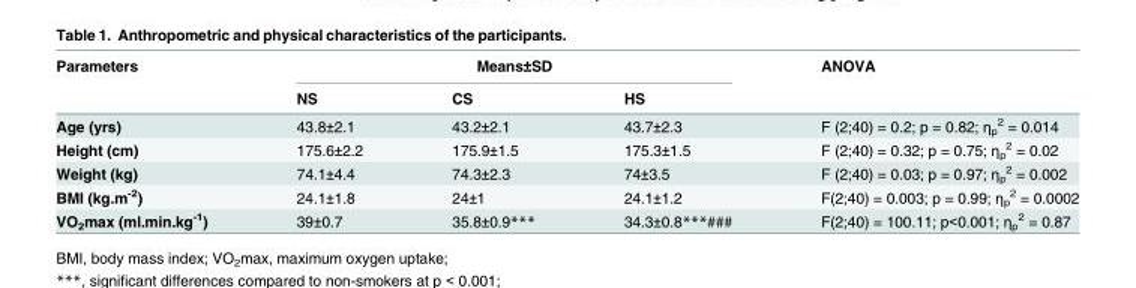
<table><thead><tr><td rowspan="2">Parameters</td><td colspan="3">Means±SD</td><td rowspan="2">ANOVA</td></tr><tr><td>NS</td><td>CS</td><td>HS</td></tr></thead><tbody><tr><td>Age (yrs)</td><td>43.8±2.1</td><td>43.2±2.1</td><td>43.7±2.3</td><td>F (2;40) = 0.2; p = 0.82; η<sub>p</sub> <sup>2</sup> = 0.014</td></tr><tr><td>Height (cm)</td><td>175.6±2.2</td><td>175.9±1.5</td><td>175.3±1.5</td><td>F (2;40) = 0.32; p = 0.75; η<sub>p</sub> <sup>2</sup> = 0.02</td></tr><tr><td>Weight (kg)</td><td>74.1±4.4</td><td>74.3±2.3</td><td>74±3.5</td><td>F (2;40) = 0.03; p = 0.97; η<sub>p</sub> <sup>2</sup> = 0.002</td></tr><tr><td>BMI (kg.m<sup>-2</sup>)</td><td>24.1±1.8</td><td>24±1</td><td>24.1±1.2</td><td>F(2;40) = 0.003; p = 0.99; η<sub>p</sub> <sup>2</sup> = 0.0002</td></tr><tr><td>VO<sub>2</sub>max (ml.min.kg<sup>-1</sup>)</td><td>39±0.7</td><td>35.8±0.9***</td><td>34.3±0.8***###</td><td>F(2;40) = 100.11; p&lt;0.001; η<sub>p</sub> <sup>2</sup> = 0.87</td></tr></tbody></table>